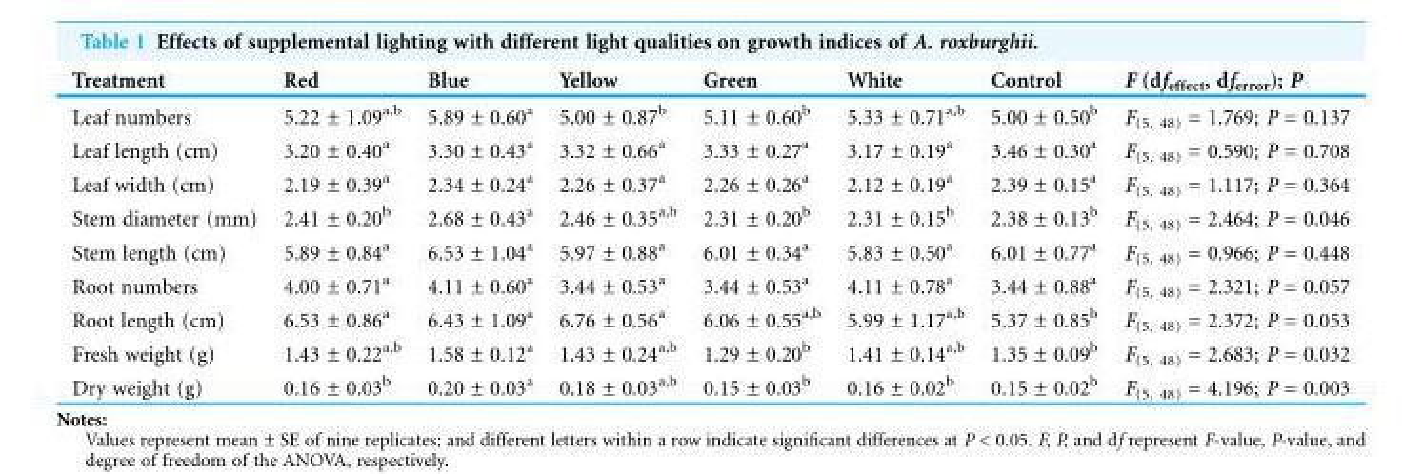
<table><thead><tr><td>Treatment</td><td>Red</td><td>Blue</td><td>Yellow</td><td>Green</td><td>White</td><td>Control</td><td>F (df<sub>effect</sub>, df<sub>error</sub>); P</td></tr></thead><tbody><tr><td>Leaf numbers</td><td>5.22 ± 1.09<sup>a,b</sup></td><td>5.89 ± 0.60<sup>a</sup></td><td>5.00 ± 0.87<sup>b</sup></td><td>5.11 ± 0.60<sup>b</sup></td><td>5.33 ± 0.71<sup>a,b</sup></td><td>5.00 ± 0.50<sup>b</sup></td><td>F<sub>(5, 48)</sub> = 1.769; P = 0.137</td></tr><tr><td>Leaf length (cm)</td><td>3.20 ± 0.40<sup>a</sup></td><td>3.30 ± 0.43<sup>a</sup></td><td>3.32 ± 0.66<sup>a</sup></td><td>3.33 ± 0.27<sup>a</sup></td><td>3.17 ± 0.19<sup>a</sup></td><td>3.46 ± 0.30<sup>a</sup></td><td>F<sub>(5, 48)</sub> = 0.590; P = 0.708</td></tr><tr><td>Leaf width (cm)</td><td>2.19 ± 0.39<sup>a</sup></td><td>2.34 ± 0.24<sup>a</sup></td><td>2.26 ± 0.37<sup>a</sup></td><td>2.26 ± 0.26<sup>a</sup></td><td>2.12 ± 0.19<sup>a</sup></td><td>2.39 ± 0.15<sup>a</sup></td><td>F<sub>(5, 48)</sub> = 1.117; P = 0.364</td></tr><tr><td>Stem diameter (mm)</td><td>2.41 ± 0.20<sup>b</sup></td><td>2.68 ± 0.43<sup>a</sup></td><td>2.46 ± 0.35<sup>a,b</sup></td><td>2.31 ± 0.20<sup>b</sup></td><td>2.31 ± 0.15<sup>b</sup></td><td>2.38 ± 0.13<sup>b</sup></td><td>F<sub>(5, 48)</sub> = 2.464; P = 0.046</td></tr><tr><td>Stem length (cm)</td><td>5.89 ± 0.84<sup>a</sup></td><td>6.53 ± 1.04<sup>a</sup></td><td>5.97 ± 0.88<sup>a</sup></td><td>6.01 ± 0.34<sup>a</sup></td><td>5.83 ± 0.50<sup>a</sup></td><td>6.01 ± 0.77<sup>a</sup></td><td>F<sub>(5, 48)</sub> = 0.966; P = 0.448</td></tr><tr><td>Root numbers</td><td>4.00 ± 0.71<sup>a</sup></td><td>4.11 ± 0.60<sup>a</sup></td><td>3.44 ± 0.53<sup>a</sup></td><td>3.44 ± 0.53<sup>a</sup></td><td>4.11 ± 0.78<sup>a</sup></td><td>3.44 ± 0.88<sup>a</sup></td><td>F<sub>(5, 48)</sub> = 2.321; P = 0.057</td></tr><tr><td>Root length (cm)</td><td>6.53 ± 0.86<sup>a</sup></td><td>6.43 ± 1.09<sup>a</sup></td><td>6.76 ± 0.56<sup>a</sup></td><td>6.06 ± 0.55<sup>a,b</sup></td><td>5.99 ± 1.17<sup>a,b</sup></td><td>5.37 ± 0.85<sup>b</sup></td><td>F<sub>(5, 48)</sub> = 2.372; P = 0.053</td></tr><tr><td>Fresh weight (g)</td><td>1.43 ± 0.22<sup>a,b</sup></td><td>1.58 ± 0.12<sup>a</sup></td><td>1.43 ± 0.24<sup>a,b</sup></td><td>1.29 ± 0.20<sup>b</sup></td><td>1.41 ± 0.14<sup>a,b</sup></td><td>1.35 ± 0.09<sup>b</sup></td><td>F<sub>(5, 48)</sub> = 2.683; P = 0.032</td></tr><tr><td>Dry weight (g)</td><td>0.16 ± 0.03<sup>b</sup></td><td>0.20 ± 0.03<sup>a</sup></td><td>0.18 ± 0.03<sup>a,b</sup></td><td>0.15 ± 0.03<sup>b</sup></td><td>0.16 ± 0.02<sup>b</sup></td><td>0.15 ± 0.02<sup>b</sup></td><td>F<sub>(5, 48)</sub> = 4.196; P = 0.003</td></tr></tbody></table>